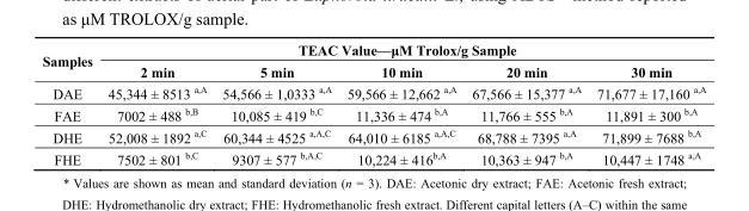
<table><thead><tr><td rowspan="2">Samples</td><td colspan="5">TEAC Value—μM Trolox/g Sample</td></tr><tr><td>2 min</td><td>5 min</td><td>10 min</td><td>20 min</td><td>30 min</td></tr></thead><tbody><tr><td>DAE</td><td>45,344 ± 8513 <sup>a,A</sup></td><td>54,566 ± 1,0333 <sup>a,A</sup></td><td>59,566 ± 12,662 <sup>a,A</sup></td><td>67,566 ± 15,377 <sup>a,A</sup></td><td>71,677 ± 17,160 <sup>a,A</sup></td></tr><tr><td>FAE</td><td>7002 ± 488 <sup>b,B</sup></td><td>10,085 ± 419 <sup>b,C</sup></td><td>11,336 ± 474 <sup>b,A</sup></td><td>11,766 ± 555 <sup>b,A</sup></td><td>11,891 ± 300 <sup>b,A</sup></td></tr><tr><td>DHE</td><td>52,008 ± 1892 <sup>a,C</sup></td><td>60,344 ± 4525 <sup>a,A,C</sup></td><td>64,010 ± 6185 <sup>a,A,C</sup></td><td>68,788 ± 7395 <sup>a,A</sup></td><td>71,899 ± 7688 <sup>b,A</sup></td></tr><tr><td>FHE</td><td>7502 ± 801 <sup>b,C</sup></td><td>9307 ± 577 <sup>b,A,C</sup></td><td>10,224 ± 416<sup>b,A</sup></td><td>10,363 ± 947 <sup>b,A</sup></td><td>10,447 ± 1748 <sup>a,A</sup></td></tr></tbody></table>